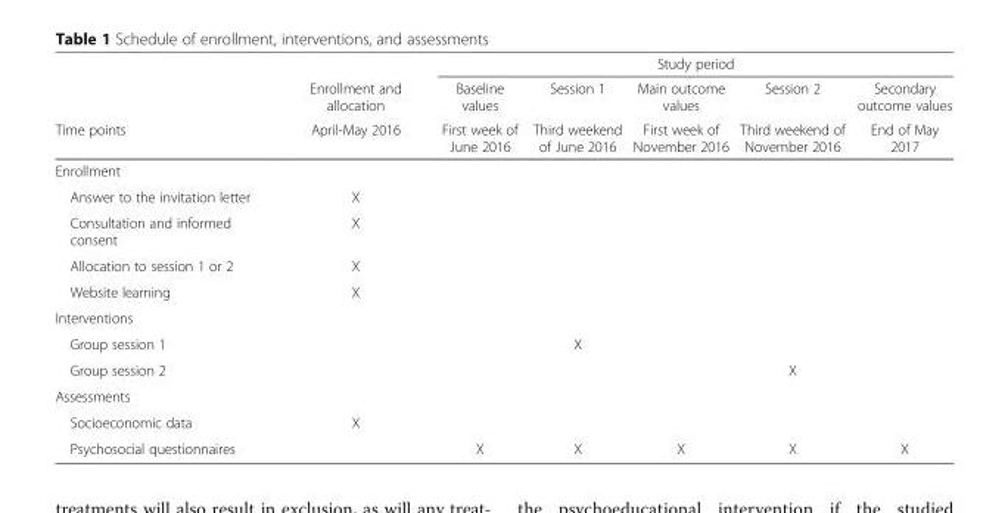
<table><thead><tr><td rowspan="3">Time points</td><td rowspan="3">Enrollment and allocation April-May 2016</td><td colspan="5">Study period</td></tr><tr><td rowspan="2">Baseline values First week of June 2016</td><td rowspan="2">Session 1 Third weekend of June 2016</td><td rowspan="2">Main outcome values First week of November 2016</td><td rowspan="2">Session 2 Third weekend of November 2016</td><td rowspan="2">Secondary outcome values End of May 2017</td></tr><tr></tr></thead><tbody><tr><td colspan="7">Enrollment</td></tr><tr><td>Answer to the invitation letter</td><td>X</td><td></td><td></td><td></td><td></td><td></td></tr><tr><td>Consultation and informed consent</td><td>X</td><td></td><td></td><td></td><td></td><td></td></tr><tr><td>Allocation to session 1 or 2</td><td>X</td><td></td><td></td><td></td><td></td><td></td></tr><tr><td>Website learning</td><td>X</td><td></td><td></td><td></td><td></td><td></td></tr><tr><td colspan="7">Interventions</td></tr><tr><td>Group session 1</td><td></td><td></td><td>X</td><td></td><td></td><td></td></tr><tr><td>Group session 2</td><td></td><td></td><td></td><td></td><td>X</td><td></td></tr><tr><td colspan="7">Assessments</td></tr><tr><td>Socioeconomic data</td><td>X</td><td></td><td></td><td></td><td></td><td></td></tr><tr><td>Psychosocial questionnaires</td><td></td><td>X</td><td>X</td><td>X</td><td>X</td><td>X</td></tr></tbody></table>